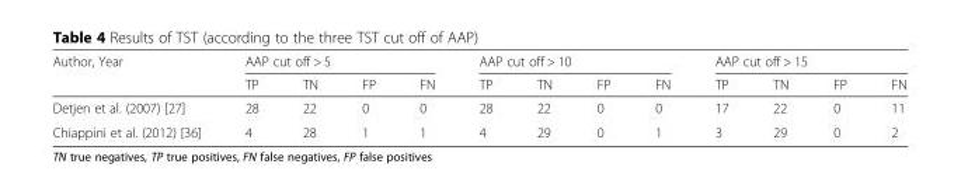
<table><thead><tr><td rowspan="2">Author, Year</td><td colspan="4">AAP cut off &gt; 5</td><td colspan="4">AAP cut off &gt; 10</td><td colspan="4">AAP cut off &gt; 15</td></tr><tr><td>TP</td><td>TN</td><td>FP</td><td>FN</td><td>TP</td><td>TN</td><td>FP</td><td>FN</td><td>TP</td><td>TN</td><td>FP</td><td>FN</td></tr></thead><tbody><tr><td>Detjen et al. (2007) [27]</td><td>28</td><td>22</td><td>0</td><td>0</td><td>28</td><td>22</td><td>0</td><td>0</td><td>17</td><td>22</td><td>0</td><td>11</td></tr><tr><td>Chiappini et al. (2012) [36]</td><td>4</td><td>28</td><td>1</td><td>1</td><td>4</td><td>29</td><td>0</td><td>1</td><td>3</td><td>29</td><td>0</td><td>2</td></tr></tbody></table>